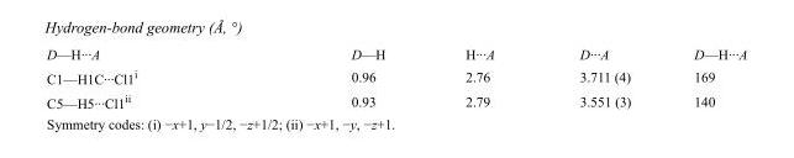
<table><tbody><tr><td>D—H···A</td><td>D—H</td><td>H···A</td><td>D···A</td><td>D—H···A</td></tr><tr><td>C1—H1C···Cl1<sup>i</sup></td><td>0.96</td><td>2.76</td><td>3.711 (4)</td><td>169</td></tr><tr><td>C5—H5···Cl1<sup>ii</sup></td><td>0.93</td><td>2.79</td><td>3.551 (3)</td><td>140</td></tr></tbody></table>